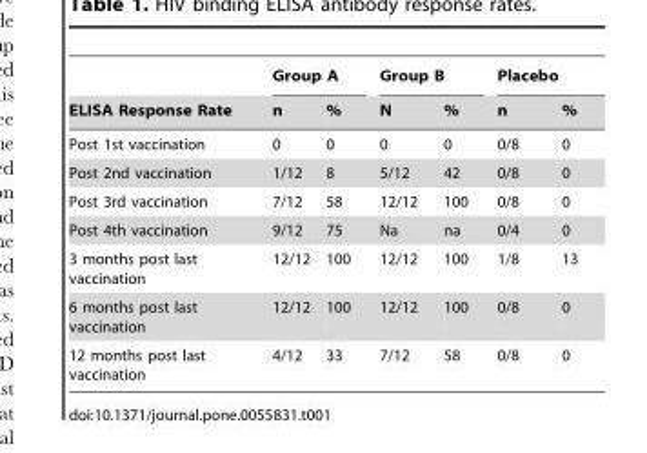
<table><thead><tr><td rowspan="2">ELISA Response Rate</td><td colspan="2">Group A</td><td colspan="2">Group B</td><td colspan="2">Placebo</td></tr><tr><td>n</td><td>%</td><td>N</td><td>%</td><td>n</td><td>%</td></tr></thead><tbody><tr><td>Post 1st vaccination</td><td>0</td><td>0</td><td>0</td><td>0</td><td>0/8</td><td>0</td></tr><tr><td>Post 2nd vaccination</td><td>1/12</td><td>8</td><td>5/12</td><td>42</td><td>0/8</td><td>0</td></tr><tr><td>Post 3rd vaccination</td><td>7/12</td><td>58</td><td>12/12</td><td>100</td><td>0/8</td><td>0</td></tr><tr><td>Post 4th vaccination</td><td>9/12</td><td>75</td><td>Na</td><td>na</td><td>0/4</td><td>0</td></tr><tr><td>3 months post last vaccination</td><td>12/12</td><td>100</td><td>12/12</td><td>100</td><td>1/8</td><td>13</td></tr><tr><td>6 months post last vaccination</td><td>12/12</td><td>100</td><td>12/12</td><td>100</td><td>0/8</td><td>0</td></tr><tr><td>12 months post last vaccination</td><td>4/12</td><td>33</td><td>7/12</td><td>58</td><td>0/8</td><td>0</td></tr></tbody></table>